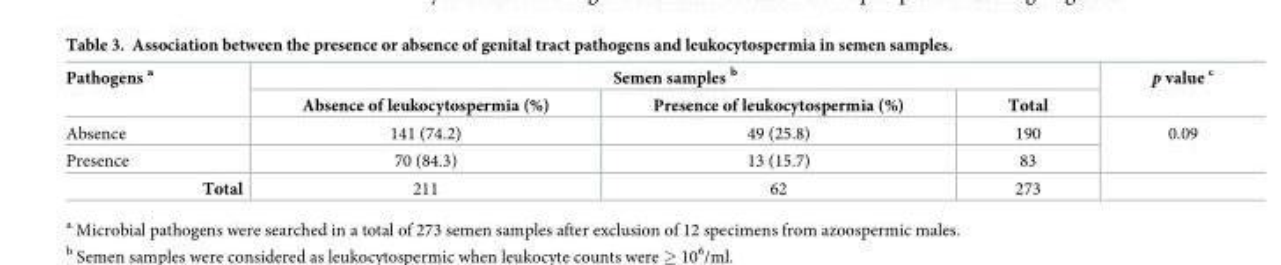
<table><thead><tr><td rowspan="2">Pathogens <sup>a</sup></td><td colspan="3">Semen samples <sup>b</sup></td><td rowspan="2">p value <sup>c</sup></td></tr><tr><td>Absence of leukocytospermia (%)</td><td>Presence of leukocytospermia (%)</td><td>Total</td></tr></thead><tbody><tr><td>Absence</td><td>141 (74.2)</td><td>49 (25.8)</td><td>190</td><td rowspan="2">0.09</td></tr><tr><td>Presence</td><td>70 (84.3)</td><td>13 (15.7)</td><td>83</td></tr><tr><td>Total</td><td>211</td><td>62</td><td>273</td><td></td></tr></tbody></table>